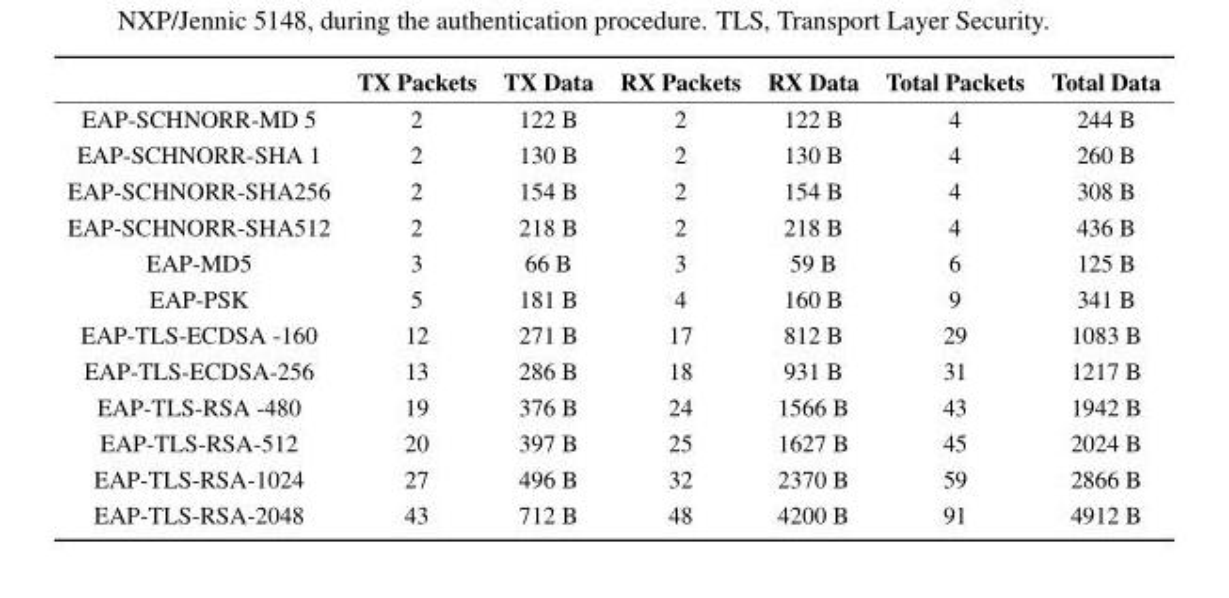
<table><thead><tr><td></td><td>TX Packets</td><td>TX Data</td><td>RX Packets</td><td>RX Data</td><td>Total Packets</td><td>Total Data</td></tr></thead><tbody><tr><td>EAP-SCHNORR-MD 5</td><td>2</td><td>122 B</td><td>2</td><td>122 B</td><td>4</td><td>244 B</td></tr><tr><td>EAP-SCHNORR-SHA 1</td><td>2</td><td>130 B</td><td>2</td><td>130 B</td><td>4</td><td>260 B</td></tr><tr><td>EAP-SCHNORR-SHA256</td><td>2</td><td>154 B</td><td>2</td><td>154 B</td><td>4</td><td>308 B</td></tr><tr><td>EAP-SCHNORR-SHA512</td><td>2</td><td>218 B</td><td>2</td><td>218 B</td><td>4</td><td>436 B</td></tr><tr><td>EAP-MD5</td><td>3</td><td>66 B</td><td>3</td><td>59 B</td><td>6</td><td>125 B</td></tr><tr><td>EAP-PSK</td><td>5</td><td>181 B</td><td>4</td><td>160 B</td><td>9</td><td>341 B</td></tr><tr><td>EAP-TLS-ECDSA -160</td><td>12</td><td>271 B</td><td>17</td><td>812 B</td><td>29</td><td>1083 B</td></tr><tr><td>EAP-TLS-ECDSA-256</td><td>13</td><td>286 B</td><td>18</td><td>931 B</td><td>31</td><td>1217 B</td></tr><tr><td>EAP-TLS-RSA -480</td><td>19</td><td>376 B</td><td>24</td><td>1566 B</td><td>43</td><td>1942 B</td></tr><tr><td>EAP-TLS-RSA-512</td><td>20</td><td>397 B</td><td>25</td><td>1627 B</td><td>45</td><td>2024 B</td></tr><tr><td>EAP-TLS-RSA-1024</td><td>27</td><td>496 B</td><td>32</td><td>2370 B</td><td>59</td><td>2866 B</td></tr><tr><td>EAP-TLS-RSA-2048</td><td>43</td><td>712 B</td><td>48</td><td>4200 B</td><td>91</td><td>4912 B</td></tr></tbody></table>